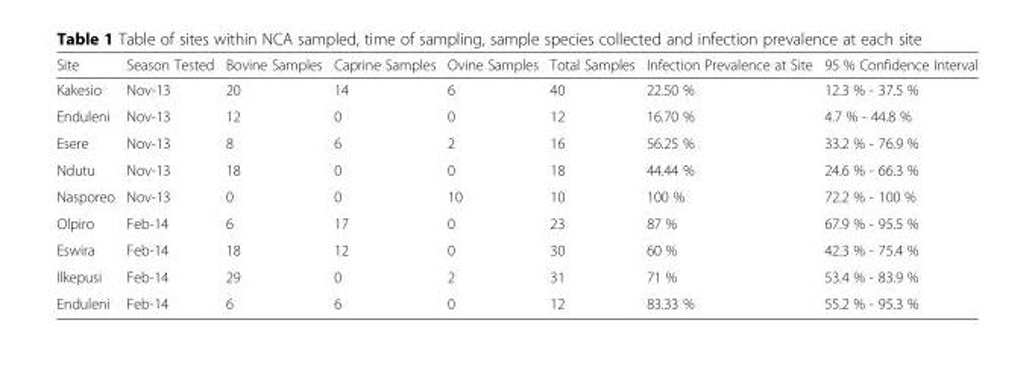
<table><thead><tr><td>Site</td><td>Season Tested</td><td>Bovine Samples</td><td>Caprine Samples</td><td>Ovine Samples</td><td>Total Samples</td><td>Infection Prevalence at Site</td><td>95 % Confidence Interval</td></tr></thead><tbody><tr><td>Kakesio</td><td>Nov-13</td><td>20</td><td>14</td><td>6</td><td>40</td><td>22.50 %</td><td>12.3 % - 37.5 %</td></tr><tr><td>Enduleni</td><td>Nov-13</td><td>12</td><td>0</td><td>0</td><td>12</td><td>16.70 %</td><td>4.7 % - 44.8 %</td></tr><tr><td>Esere</td><td>Nov-13</td><td>8</td><td>6</td><td>2</td><td>16</td><td>56.25 %</td><td>33.2 % - 76.9 %</td></tr><tr><td>Ndutu</td><td>Nov-13</td><td>18</td><td>0</td><td>0</td><td>18</td><td>44.44 %</td><td>24.6 % - 66.3 %</td></tr><tr><td>Nasporeo</td><td>Nov-13</td><td>0</td><td>0</td><td>10</td><td>10</td><td>100 %</td><td>72.2 % - 100 %</td></tr><tr><td>Olpiro</td><td>Feb-14</td><td>6</td><td>17</td><td>0</td><td>23</td><td>87 %</td><td>67.9 % - 95.5 %</td></tr><tr><td>Eswira</td><td>Feb-14</td><td>18</td><td>12</td><td>0</td><td>30</td><td>60 %</td><td>42.3 % - 75.4 %</td></tr><tr><td>Ilkepusi</td><td>Feb-14</td><td>29</td><td>0</td><td>2</td><td>31</td><td>71 %</td><td>53.4 % - 83.9 %</td></tr><tr><td>Enduleni</td><td>Feb-14</td><td>6</td><td>6</td><td>0</td><td>12</td><td>83.33 %</td><td>55.2 % - 95.3 %</td></tr></tbody></table>